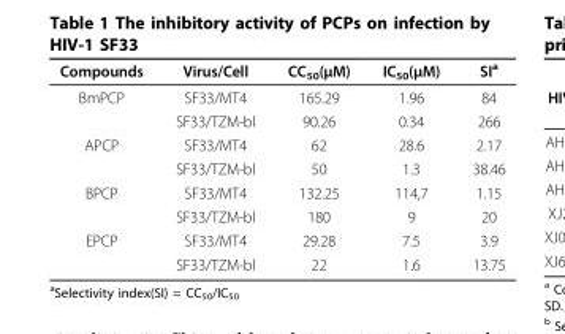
<table><thead><tr><td>Compounds</td><td>Virus/Cell</td><td>CC<sub>50</sub>(μM)</td><td>IC<sub>50</sub>(μM)</td><td>SI<sup>a</sup></td></tr></thead><tbody><tr><td rowspan="2">BmPCP</td><td>SF33/MT4</td><td>165.29</td><td>1.96</td><td>84</td></tr><tr><td>SF33/TZM-bl</td><td>90.26</td><td>0.34</td><td>266</td></tr><tr><td rowspan="2">APCP</td><td>SF33/MT4</td><td>62</td><td>28.6</td><td>2.17</td></tr><tr><td>SF33/TZM-bl</td><td>50</td><td>1.3</td><td>38.46</td></tr><tr><td rowspan="2">BPCP</td><td>SF33/MT4</td><td>132.25</td><td>114,7</td><td>1.15</td></tr><tr><td>SF33/TZM-bl</td><td>180</td><td>9</td><td>20</td></tr><tr><td rowspan="2">EPCP</td><td>SF33/MT4</td><td>29.28</td><td>7.5</td><td>3.9</td></tr><tr><td>SF33/TZM-bl</td><td>22</td><td>1.6</td><td>13.75</td></tr></tbody></table>